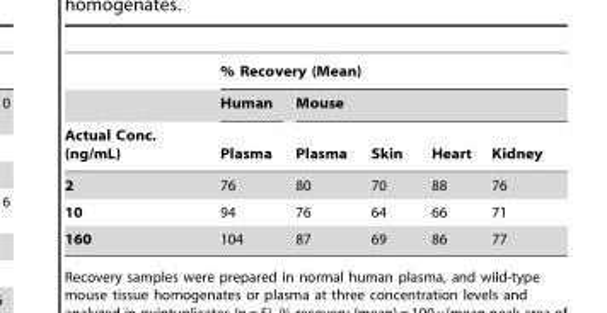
<table><thead><tr><td rowspan="3">Actual Conc. (ng/mL)</td><td colspan="5">% Recovery (Mean)</td></tr><tr><td rowspan="2">Human Plasma</td><td colspan="4">Mouse</td></tr><tr><td>Plasma</td><td>Skin</td><td>Heart</td><td>Kidney</td></tr></thead><tbody><tr><td>2</td><td>76</td><td>80</td><td>70</td><td>88</td><td>76</td></tr><tr><td>10</td><td>94</td><td>76</td><td>64</td><td>66</td><td>71</td></tr><tr><td>160</td><td>104</td><td>87</td><td>69</td><td>86</td><td>77</td></tr></tbody></table>